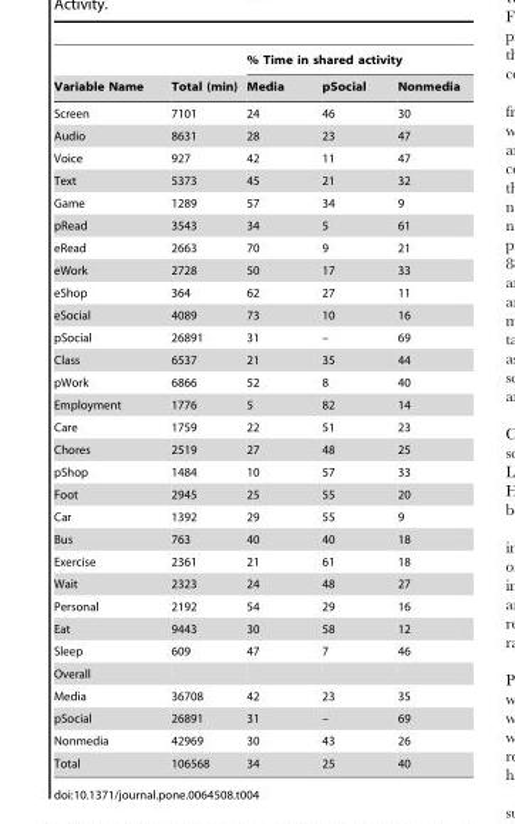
<table><thead><tr><td rowspan="2">Variable Name</td><td rowspan="2">Total (min)</td><td colspan="3">% Time in shared activity</td></tr><tr><td>Media</td><td>pSocial</td><td>Nonmedia</td></tr></thead><tbody><tr><td>Screen</td><td>7101</td><td>24</td><td>46</td><td>30</td></tr><tr><td>Audio</td><td>8631</td><td>28</td><td>23</td><td>47</td></tr><tr><td>Voice</td><td>927</td><td>42</td><td>11</td><td>47</td></tr><tr><td>Text</td><td>5373</td><td>45</td><td>21</td><td>32</td></tr><tr><td>Game</td><td>1289</td><td>57</td><td>34</td><td>9</td></tr><tr><td>pRead</td><td>3543</td><td>34</td><td>5</td><td>61</td></tr><tr><td>eRead</td><td>2663</td><td>70</td><td>9</td><td>21</td></tr><tr><td>eWork</td><td>2728</td><td>50</td><td>17</td><td>33</td></tr><tr><td>eShop</td><td>364</td><td>62</td><td>27</td><td>11</td></tr><tr><td>eSocial</td><td>4089</td><td>73</td><td>10</td><td>16</td></tr><tr><td>pSocial</td><td>26891</td><td>31</td><td>–</td><td>69</td></tr><tr><td>Class</td><td>6537</td><td>21</td><td>35</td><td>44</td></tr><tr><td>pWork</td><td>6866</td><td>52</td><td>8</td><td>40</td></tr><tr><td>Employment</td><td>1776</td><td>5</td><td>82</td><td>14</td></tr><tr><td>Care</td><td>1759</td><td>22</td><td>51</td><td>23</td></tr><tr><td>Chores</td><td>2519</td><td>27</td><td>48</td><td>25</td></tr><tr><td>pShop</td><td>1484</td><td>10</td><td>57</td><td>33</td></tr><tr><td>Foot</td><td>2945</td><td>25</td><td>55</td><td>20</td></tr><tr><td>Car</td><td>1392</td><td>29</td><td>55</td><td>9</td></tr><tr><td>Bus</td><td>763</td><td>40</td><td>40</td><td>18</td></tr><tr><td>Exercise</td><td>2361</td><td>21</td><td>61</td><td>18</td></tr><tr><td>Wait</td><td>2323</td><td>24</td><td>48</td><td>27</td></tr><tr><td>Personal</td><td>2192</td><td>54</td><td>29</td><td>16</td></tr><tr><td>Eat</td><td>9443</td><td>30</td><td>58</td><td>12</td></tr><tr><td>Sleep</td><td>609</td><td>47</td><td>7</td><td>46</td></tr><tr><td colspan="5">Overall</td></tr><tr><td>Media</td><td>36708</td><td>42</td><td>23</td><td>35</td></tr><tr><td>pSocial</td><td>26891</td><td>31</td><td>–</td><td>69</td></tr><tr><td>Nonmedia</td><td>42969</td><td>30</td><td>43</td><td>26</td></tr><tr><td>Total</td><td>106568</td><td>34</td><td>25</td><td>40</td></tr></tbody></table>